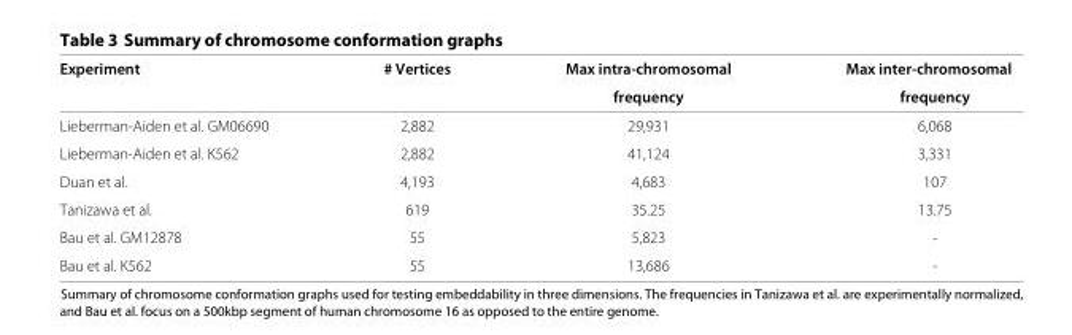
<table><thead><tr><td rowspan="2">Experiment</td><td rowspan="2"># Vertices</td><td rowspan="2">Max intra-chromosomal frequency</td><td rowspan="2">Max inter-chromosomal frequency</td></tr><tr></tr></thead><tbody><tr><td>Lieberman-Aiden et al. GM06690</td><td>2,882</td><td>29,931</td><td>6,068</td></tr><tr><td>Lieberman-Aiden et al. K562</td><td>2,882</td><td>41,124</td><td>3,331</td></tr><tr><td>Duan et al.</td><td>4,193</td><td>4,683</td><td>107</td></tr><tr><td>Tanizawa et al.</td><td>619</td><td>35.25</td><td>13.75</td></tr><tr><td>Bau et al. GM12878</td><td>55</td><td>5,823</td><td>-</td></tr><tr><td>Bau et al. K562</td><td>55</td><td>13,686</td><td>-</td></tr></tbody></table>